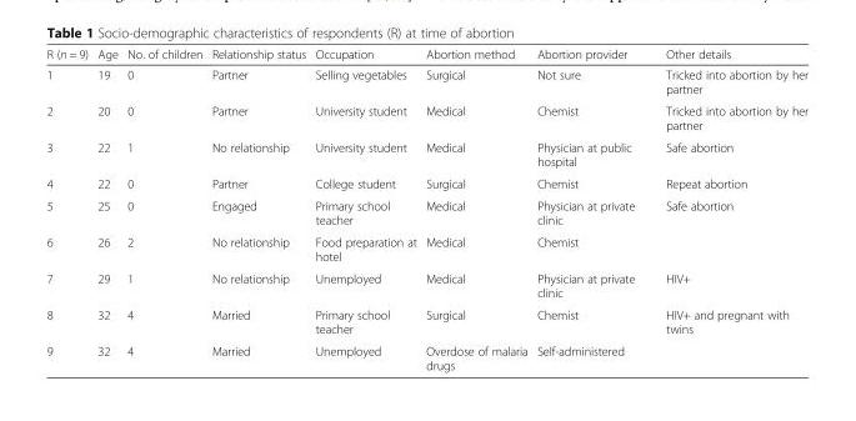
<table><thead><tr><td>R (n = 9)</td><td>Age</td><td>No. of children</td><td>Relationship status</td><td>Occupation</td><td>Abortion method</td><td>Abortion provider</td><td>Other details</td></tr></thead><tbody><tr><td>1</td><td>19</td><td>0</td><td>Partner</td><td>Selling vegetables</td><td>Surgical</td><td>Not sure</td><td>Tricked into abortion by her partner</td></tr><tr><td>2</td><td>20</td><td>0</td><td>Partner</td><td>University student</td><td>Medical</td><td>Chemist</td><td>Tricked into abortion by her partner</td></tr><tr><td>3</td><td>22</td><td>1</td><td>No relationship</td><td>University student</td><td>Medical</td><td>Physician at public hospital</td><td>Safe abortion</td></tr><tr><td>4</td><td>22</td><td>0</td><td>Partner</td><td>College student</td><td>Surgical</td><td>Chemist</td><td>Repeat abortion</td></tr><tr><td>5</td><td>25</td><td>0</td><td>Engaged</td><td>Primary school teacher</td><td>Medical</td><td>Physician at private clinic</td><td>Safe abortion</td></tr><tr><td>6</td><td>26</td><td>2</td><td>No relationship</td><td>Food preparation at hotel</td><td>Medical</td><td>Chemist</td><td></td></tr><tr><td>7</td><td>29</td><td>1</td><td>No relationship</td><td>Unemployed</td><td>Medical</td><td>Physician at private clinic</td><td>HIV+</td></tr><tr><td>8</td><td>32</td><td>4</td><td>Married</td><td>Primary school teacher</td><td>Surgical</td><td>Chemist</td><td>HIV+ and pregnant with twins</td></tr><tr><td>9</td><td>32</td><td>4</td><td>Married</td><td>Unemployed</td><td>Overdose of malaria drugs</td><td>Self-administered</td><td></td></tr></tbody></table>